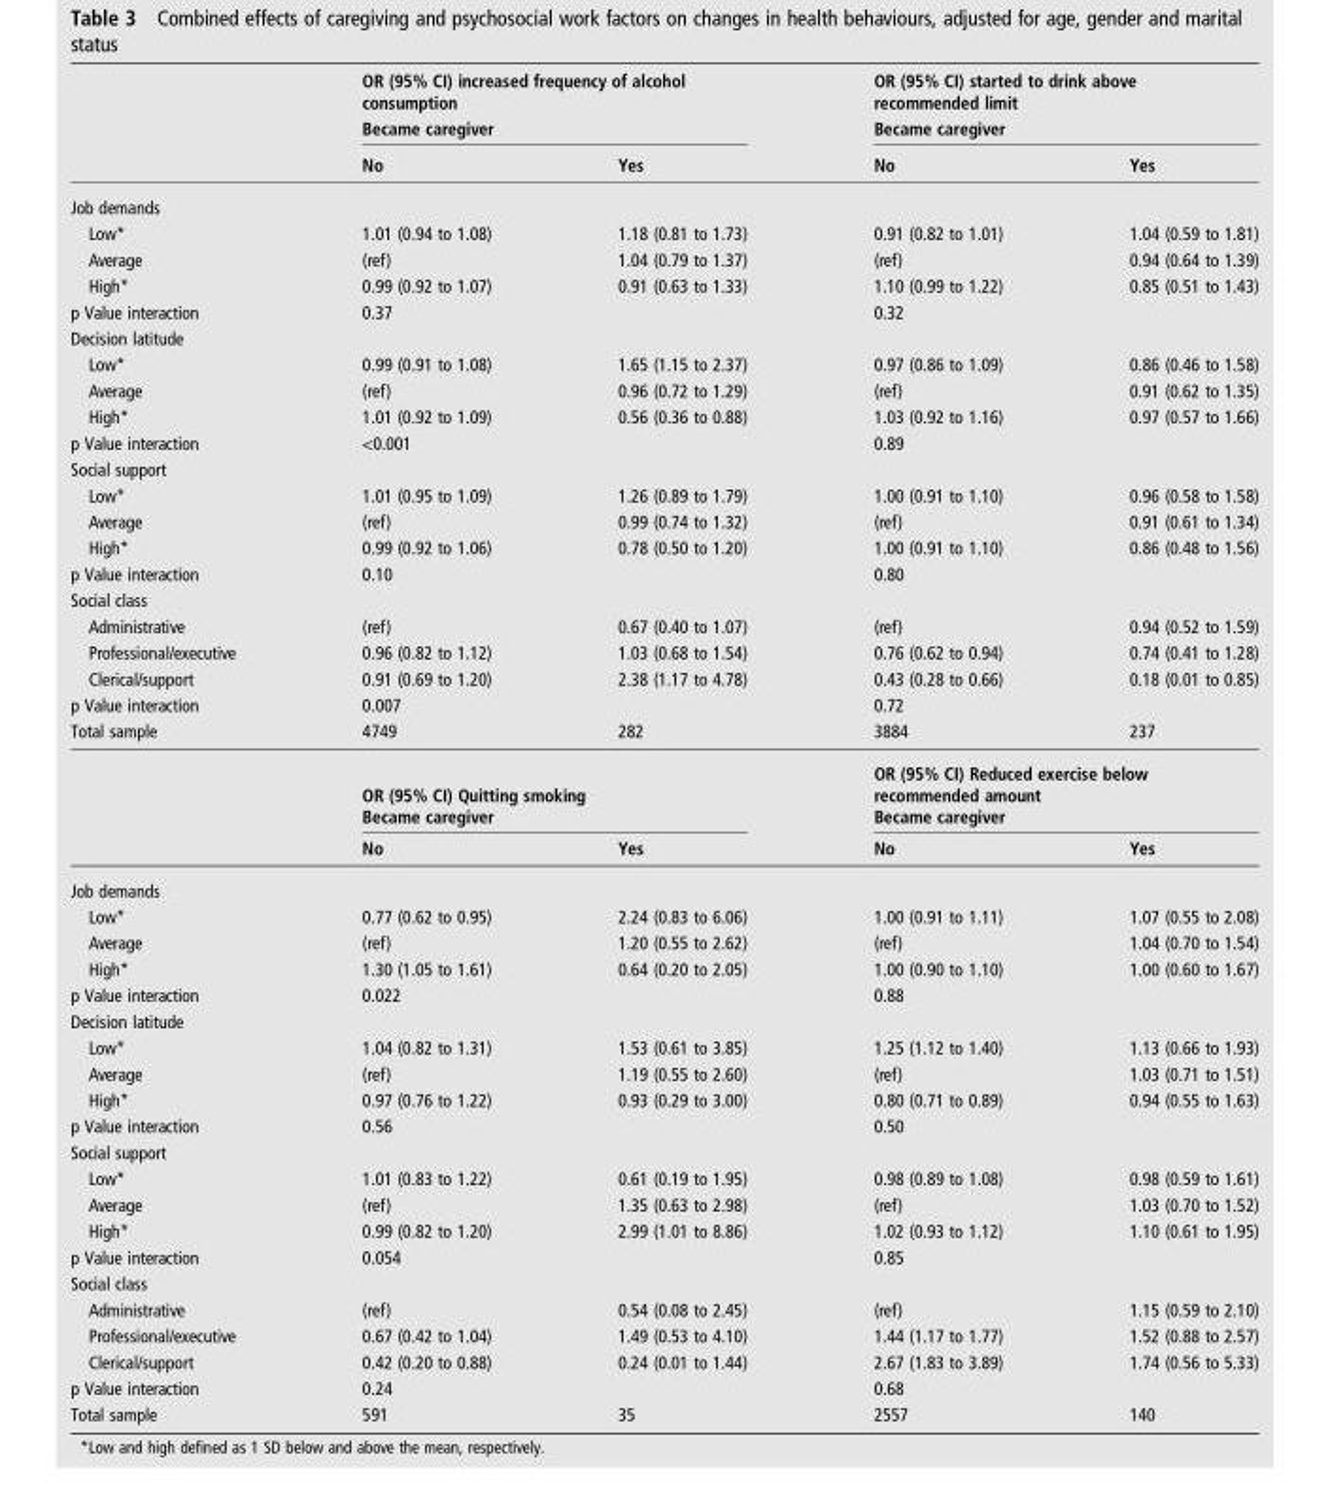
<table><thead><tr><td rowspan="3"></td><td rowspan="2" colspan="2">OR (95% CI) increased frequency of alcohol consumption Became caregiver</td><td rowspan="2" colspan="2">OR (95% CI) started to drink above recommended limit Became caregiver</td></tr><tr></tr><tr><td>No</td><td>Yes</td><td>No</td><td>Yes</td></tr></thead><tbody><tr><td colspan="5">Job demands</td></tr><tr><td>Low*</td><td>1.01 (0.94 to 1.08)</td><td>1.18 (0.81 to 1.73)</td><td>0.91 (0.82 to 1.01)</td><td>1.04 (0.59 to 1.81)</td></tr><tr><td>Average</td><td>(ref)</td><td>1.04 (0.79 to 1.37)</td><td>(ref)</td><td>0.94 (0.64 to 1.39)</td></tr><tr><td>High*</td><td>0.99 (0.92 to 1.07)</td><td>0.91 (0.63 to 1.33)</td><td>1.10 (0.99 to 1.22)</td><td>0.85 (0.51 to 1.43)</td></tr><tr><td>p Value interaction</td><td colspan="2">0.37</td><td colspan="2">0.32</td></tr><tr><td colspan="5">Decision latitude</td></tr><tr><td>Low*</td><td>0.99 (0.91 to 1.08)</td><td>1.65 (1.15 to 2.37)</td><td>0.97 (0.86 to 1.09)</td><td>0.86 (0.46 to 1.58)</td></tr><tr><td>Average</td><td>(ref)</td><td>0.96 (0.72 to 1.29)</td><td>(ref)</td><td>0.91 (0.62 to 1.35)</td></tr><tr><td>High*</td><td>1.01 (0.92 to 1.09)</td><td>0.56 (0.36 to 0.88)</td><td>1.03 (0.92 to 1.16)</td><td>0.97 (0.57 to 1.66)</td></tr><tr><td>p Value interaction</td><td colspan="2">&lt;0.001</td><td colspan="2">0.89</td></tr><tr><td colspan="5">Social support</td></tr><tr><td>Low*</td><td>1.01 (0.95 to 1.09)</td><td>1.26 (0.89 to 1.79)</td><td>1.00 (0.91 to 1.10)</td><td>0.96 (0.58 to 1.58)</td></tr><tr><td>Average</td><td>(ref)</td><td>0.99 (0.74 to 1.32)</td><td>(ref)</td><td>0.91 (0.61 to 1.34)</td></tr><tr><td>High*</td><td>0.99 (0.92 to 1.06)</td><td>0.78 (0.50 to 1.20)</td><td>1.00 (0.91 to 1.10)</td><td>0.86 (0.48 to 1.56)</td></tr><tr><td>p Value interaction</td><td colspan="2">0.10</td><td colspan="2">0.80</td></tr><tr><td colspan="5">Social class</td></tr><tr><td>Administrative</td><td>(ref)</td><td>0.67 (0.40 to 1.07)</td><td>(ref)</td><td>0.94 (0.52 to 1.59)</td></tr><tr><td>Professional/executive</td><td>0.96 (0.82 to 1.12)</td><td>1.03 (0.68 to 1.54)</td><td>0.76 (0.62 to 0.94)</td><td>0.74 (0.41 to 1.28)</td></tr><tr><td>Clerical/support</td><td>0.91 (0.69 to 1.20)</td><td>2.38 (1.17 to 4.78)</td><td>0.43 (0.28 to 0.66)</td><td>0.18 (0.01 to 0.85)</td></tr><tr><td>p Value interaction</td><td colspan="2">0.007</td><td colspan="2">0.72</td></tr><tr><td rowspan="4">Total sample</td><td>4749</td><td>282</td><td>3884</td><td>237</td></tr><tr><td colspan="2">OR (95% CI) Quitting smoking</td><td colspan="2">OR (95% CI) Reduced exercise below recommended amount</td></tr><tr><td colspan="2">Became caregiver</td><td colspan="2">Became caregiver</td></tr><tr><td>No</td><td>Yes</td><td>No</td><td>Yes</td></tr><tr><td colspan="5">Job demands</td></tr><tr><td>Low*</td><td>0.77 (0.62 to 0.95)</td><td>2.24 (0.83 to 6.06)</td><td>1.00 (0.91 to 1.11)</td><td>1.07 (0.55 to 2.08)</td></tr><tr><td>Average</td><td>(ref)</td><td>1.20 (0.55 to 2.62)</td><td>(ref)</td><td>1.04 (0.70 to 1.54)</td></tr><tr><td>High*</td><td>1.30 (1.05 to 1.61)</td><td>0.64 (0.20 to 2.05)</td><td>1.00 (0.90 to 1.10)</td><td>1.00 (0.60 to 1.67)</td></tr><tr><td>p Value interaction</td><td colspan="2">0.022</td><td colspan="2">0.88</td></tr><tr><td colspan="5">Decision latitude</td></tr><tr><td>Low*</td><td>1.04 (0.82 to 1.31)</td><td>1.53 (0.61 to 3.85)</td><td>1.25 (1.12 to 1.40)</td><td>1.13 (0.66 to 1.93)</td></tr><tr><td>Average</td><td>(ref)</td><td>1.19 (0.55 to 2.60)</td><td>(ref)</td><td>1.03 (0.71 to 1.51)</td></tr><tr><td>High*</td><td>0.97 (0.76 to 1.22)</td><td>0.93 (0.29 to 3.00)</td><td>0.80 (0.71 to 0.89)</td><td>0.94 (0.55 to 1.63)</td></tr><tr><td>p Value interaction</td><td colspan="2">0.56</td><td colspan="2">0.50</td></tr><tr><td colspan="5">Social support</td></tr><tr><td>Low*</td><td>1.01 (0.83 to 1.22)</td><td>0.61 (0.19 to 1.95)</td><td>0.98 (0.89 to 1.08)</td><td>0.98 (0.59 to 1.61)</td></tr><tr><td>Average</td><td>(ref)</td><td>1.35 (0.63 to 2.98)</td><td>(ref)</td><td>1.03 (0.70 to 1.52)</td></tr><tr><td>High*</td><td>0.99 (0.82 to 1.20)</td><td>2.99 (1.01 to 8.86)</td><td>1.02 (0.93 to 1.12)</td><td>1.10 (0.61 to 1.95)</td></tr><tr><td>p Value interaction</td><td colspan="2">0.054</td><td colspan="2">0.85</td></tr><tr><td colspan="5">Social class</td></tr><tr><td>Administrative</td><td>(ref)</td><td>0.54 (0.08 to 2.45)</td><td>(ref)</td><td>1.15 (0.59 to 2.10)</td></tr><tr><td>Professional/executive</td><td>0.67 (0.42 to 1.04)</td><td>1.49 (0.53 to 4.10)</td><td>1.44 (1.17 to 1.77)</td><td>1.52 (0.88 to 2.57)</td></tr><tr><td>Clerical/support</td><td>0.42 (0.20 to 0.88)</td><td>0.24 (0.01 to 1.44)</td><td>2.67 (1.83 to 3.89)</td><td>1.74 (0.56 to 5.33)</td></tr><tr><td>p Value interaction</td><td colspan="2">0.24</td><td colspan="2">0.68</td></tr><tr><td>Total sample</td><td>591</td><td>35</td><td>2557</td><td>140</td></tr></tbody></table>